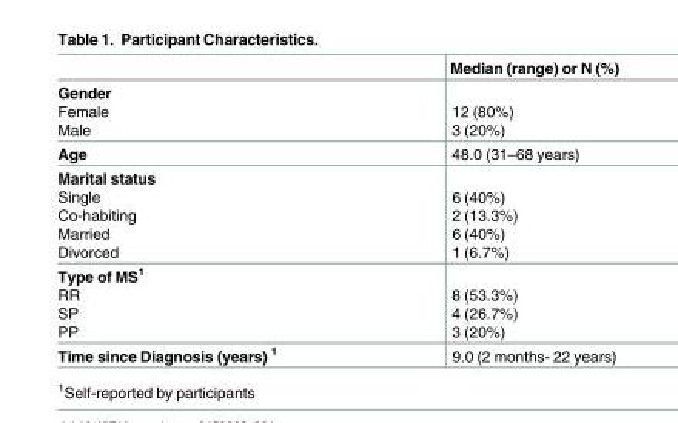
<table><thead><tr><td></td><td>Median (range) or N (%)</td></tr></thead><tbody><tr><td>Gender Female Male</td><td>12 (80%) 3 (20%)</td></tr><tr><td>Age</td><td>48.0 (31–68 years)</td></tr><tr><td>Marital status Single Co-habiting Married Divorced</td><td>6 (40%) 2 (13.3%) 6 (40%) 1 (6.7%)</td></tr><tr><td>Type of MS<sup>1</sup> RR SP PP</td><td>8 (53.3%) 4 (26.7%) 3 (20%)</td></tr><tr><td>Time since Diagnosis (years) <sup>1</sup></td><td>9.0 (2 months- 22 years)</td></tr></tbody></table>